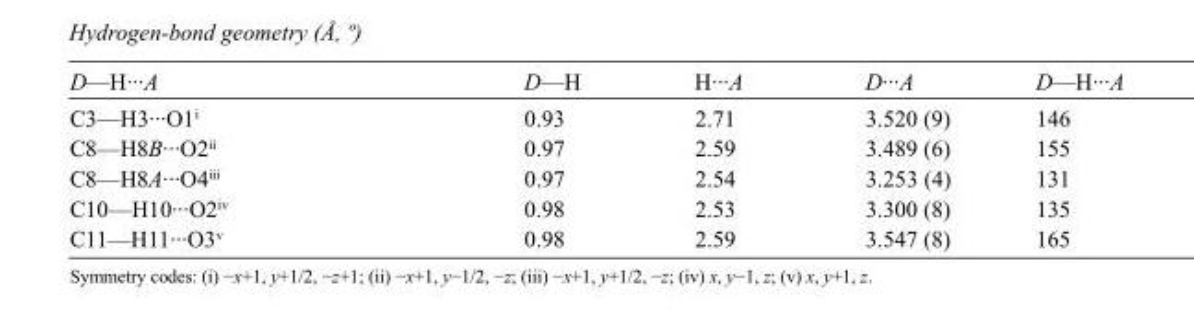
<table><tbody><tr><td>D—H···A</td><td>D—H</td><td>H···A</td><td>D···A</td><td>D—H···A</td></tr><tr><td>C3—H3···O1<sup>i</sup></td><td>0.93</td><td>2.71</td><td>3.520 (9)</td><td>146</td></tr><tr><td>C8—H8B···O2<sup>ii</sup></td><td>0.97</td><td>2.59</td><td>3.489 (6)</td><td>155</td></tr><tr><td>C8—H8A···O4<sup>iii</sup></td><td>0.97</td><td>2.54</td><td>3.253 (4)</td><td>131</td></tr><tr><td>C10—H10···O2<sup>iv</sup></td><td>0.98</td><td>2.53</td><td>3.300 (8)</td><td>135</td></tr><tr><td>C11—H11···O3<sup>v</sup></td><td>0.98</td><td>2.59</td><td>3.547 (8)</td><td>165</td></tr></tbody></table>